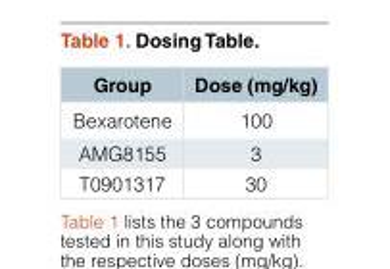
<table><thead><tr><td>Group</td><td>Dose (mg/kg)</td></tr></thead><tbody><tr><td>Bexarotene</td><td>100</td></tr><tr><td>AMG8155</td><td>3</td></tr><tr><td>T0901317</td><td>30</td></tr></tbody></table>